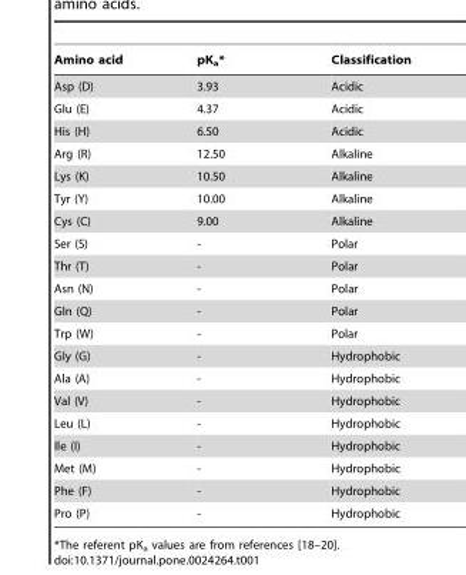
<table><thead><tr><td>Amino acid</td><td>pK<sub>a</sub>*</td><td>Classification</td></tr></thead><tbody><tr><td>Asp (D)</td><td>3.93</td><td>Acidic</td></tr><tr><td>Glu (E)</td><td>4.37</td><td>Acidic</td></tr><tr><td>His (H)</td><td>6.50</td><td>Acidic</td></tr><tr><td>Arg (R)</td><td>12.50</td><td>Alkaline</td></tr><tr><td>Lys (K)</td><td>10.50</td><td>Alkaline</td></tr><tr><td>Tyr (Y)</td><td>10.00</td><td>Alkaline</td></tr><tr><td>Cys (C)</td><td>9.00</td><td>Alkaline</td></tr><tr><td>Ser (S)</td><td>-</td><td>Polar</td></tr><tr><td>Thr (T)</td><td>-</td><td>Polar</td></tr><tr><td>Asn (N)</td><td>-</td><td>Polar</td></tr><tr><td>Gln (Q)</td><td>-</td><td>Polar</td></tr><tr><td>Trp (W)</td><td>-</td><td>Polar</td></tr><tr><td>Gly (G)</td><td>-</td><td>Hydrophobic</td></tr><tr><td>Ala (A)</td><td>-</td><td>Hydrophobic</td></tr><tr><td>Val (V)</td><td>-</td><td>Hydrophobic</td></tr><tr><td>Leu (L)</td><td>-</td><td>Hydrophobic</td></tr><tr><td>Ile (I)</td><td>-</td><td>Hydrophobic</td></tr><tr><td>Met (M)</td><td>-</td><td>Hydrophobic</td></tr><tr><td>Phe (F)</td><td>-</td><td>Hydrophobic</td></tr><tr><td>Pro (P)</td><td>-</td><td>Hydrophobic</td></tr></tbody></table>